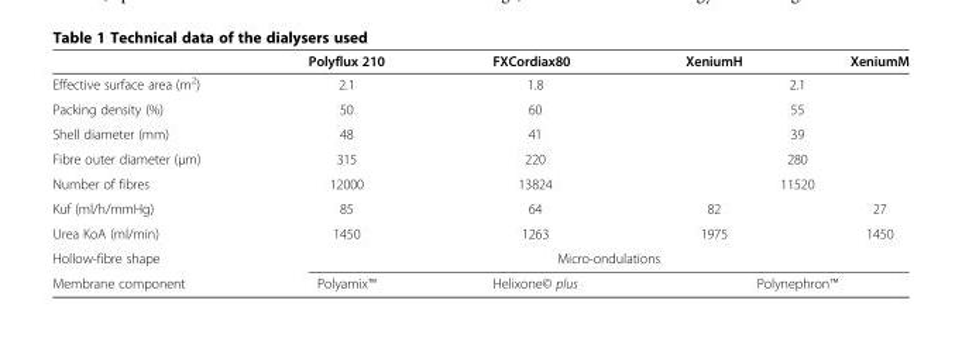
<table><thead><tr><td></td><td>Polyflux 210</td><td>FXCordiax80</td><td>XeniumH</td><td>XeniumM</td></tr></thead><tbody><tr><td>Effective surface area (m<sup>2</sup>)</td><td>2.1</td><td>1.8</td><td colspan="2">2.1</td></tr><tr><td>Packing density (%)</td><td>50</td><td>60</td><td colspan="2">55</td></tr><tr><td>Shell diameter (mm)</td><td>48</td><td>41</td><td colspan="2">39</td></tr><tr><td>Fibre outer diameter (μm)</td><td>315</td><td>220</td><td colspan="2">280</td></tr><tr><td>Number of fibres</td><td>12000</td><td>13824</td><td colspan="2">11520</td></tr><tr><td>Kuf (ml/h/mmHg)</td><td>85</td><td>64</td><td>82</td><td>27</td></tr><tr><td>Urea KoA (ml/min)</td><td>1450</td><td>1263</td><td>1975</td><td>1450</td></tr><tr><td>Hollow-fibre shape</td><td colspan="4">Micro-ondulations</td></tr><tr><td>Membrane component</td><td>Polyamix™</td><td>Helixone© plus</td><td colspan="2">Polynephron™</td></tr></tbody></table>